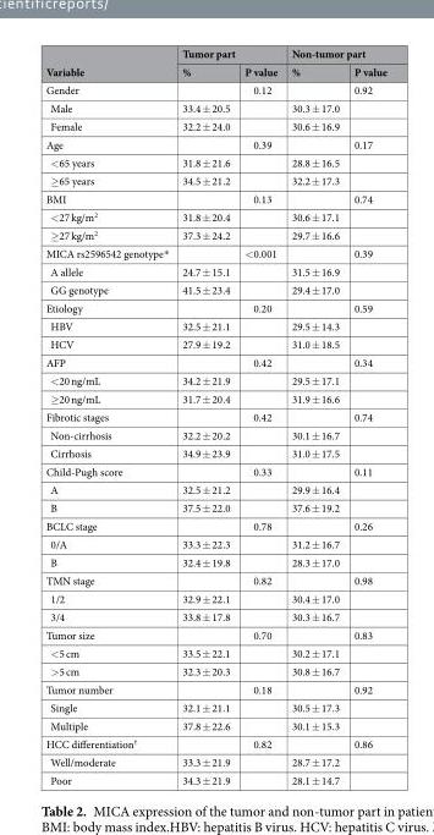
<table><thead><tr><td rowspan="2">Variable</td><td colspan="2">Tumor part</td><td colspan="2">Non-tumor part</td></tr><tr><td>%</td><td>P value</td><td>%</td><td>P value</td></tr></thead><tbody><tr><td>Gender</td><td></td><td>0.12</td><td></td><td>0.92</td></tr><tr><td>Male</td><td>33.4 ± 20.5</td><td></td><td>30.3 ± 17.0</td><td></td></tr><tr><td>Female</td><td>32.2 ± 24.0</td><td></td><td>30.6 ± 16.9</td><td></td></tr><tr><td>Age</td><td></td><td>0.39</td><td></td><td>0.17</td></tr><tr><td>&lt;65 years</td><td>31.8 ± 21.6</td><td></td><td>28.8 ± 16.5</td><td></td></tr><tr><td>≥65 years</td><td>34.5 ± 21.2</td><td></td><td>32.2 ± 17.3</td><td></td></tr><tr><td>BMI</td><td></td><td>0.13</td><td></td><td>0.74</td></tr><tr><td>&lt;27 kg/m<sup>2</sup></td><td>31.8 ± 20.4</td><td></td><td>30.6 ± 17.1</td><td></td></tr><tr><td>≥27 kg/m<sup>2</sup></td><td>37.3 ± 24.2</td><td></td><td>29.7 ± 16.6</td><td></td></tr><tr><td>MICA rs2596542 genotype*</td><td></td><td>&lt;0.001</td><td></td><td>0.39</td></tr><tr><td>A allele</td><td>24.7 ± 15.1</td><td></td><td>31.5 ± 16.9</td><td></td></tr><tr><td>GG genotype</td><td>41.5 ± 23.4</td><td></td><td>29.4 ± 17.0</td><td></td></tr><tr><td>Etiology</td><td></td><td>0.20</td><td></td><td>0.59</td></tr><tr><td>HBV</td><td>32.5 ± 21.1</td><td></td><td>29.5 ± 14.3</td><td></td></tr><tr><td>HCV</td><td>27.9 ± 19.2</td><td></td><td>31.0 ± 18.5</td><td></td></tr><tr><td>AFP</td><td></td><td>0.42</td><td></td><td>0.34</td></tr><tr><td>&lt;20 ng/mL</td><td>34.2 ± 21.9</td><td></td><td>29.5 ± 17.1</td><td></td></tr><tr><td>≥20 ng/mL</td><td>31.7 ± 20.4</td><td></td><td>31.9 ± 16.6</td><td></td></tr><tr><td>Fibrotic stages</td><td></td><td>0.42</td><td></td><td>0.74</td></tr><tr><td>Non-cirrhosis</td><td>32.2 ± 20.2</td><td></td><td>30.1 ± 16.7</td><td></td></tr><tr><td>Cirrhosis</td><td>34.9 ± 23.9</td><td></td><td>31.0 ± 17.5</td><td></td></tr><tr><td>Child-Pugh score</td><td></td><td>0.33</td><td></td><td>0.11</td></tr><tr><td>A</td><td>32.5 ± 21.2</td><td></td><td>29.9 ± 16.4</td><td></td></tr><tr><td>B</td><td>37.5 ± 22.0</td><td></td><td>37.6 ± 19.2</td><td></td></tr><tr><td>BCLC stage</td><td></td><td>0.78</td><td></td><td>0.26</td></tr><tr><td>0/A</td><td>33.3 ± 22.3</td><td></td><td>31.2 ± 16.7</td><td></td></tr><tr><td>B</td><td>32.4 ± 19.8</td><td></td><td>28.3 ± 17.0</td><td></td></tr><tr><td>TMN stage</td><td></td><td>0.82</td><td></td><td>0.98</td></tr><tr><td>1/2</td><td>32.9 ± 22.1</td><td></td><td>30.4 ± 17.0</td><td></td></tr><tr><td>3/4</td><td>33.8 ± 17.8</td><td></td><td>30.3 ± 16.7</td><td></td></tr><tr><td>Tumor size</td><td></td><td>0.70</td><td></td><td>0.83</td></tr><tr><td>&lt;5 cm</td><td>33.5 ± 22.1</td><td></td><td>30.2 ± 17.1</td><td></td></tr><tr><td>&gt;5 cm</td><td>32.3 ± 20.3</td><td></td><td>30.8 ± 16.7</td><td></td></tr><tr><td>Tumor number</td><td></td><td>0.18</td><td></td><td>0.92</td></tr><tr><td>Single</td><td>32.1 ± 21.1</td><td></td><td>30.5 ± 17.3</td><td></td></tr><tr><td>Multiple</td><td>37.8 ± 22.6</td><td></td><td>30.1 ± 15.3</td><td></td></tr><tr><td>HCC differentiation<sup>†</sup></td><td></td><td>0.82</td><td></td><td>0.86</td></tr><tr><td>Well/moderate</td><td>33.3 ± 21.9</td><td></td><td>28.7 ± 17.2</td><td></td></tr><tr><td>Poor</td><td>34.3 ± 21.9</td><td></td><td>28.1 ± 14.7</td><td></td></tr></tbody></table>